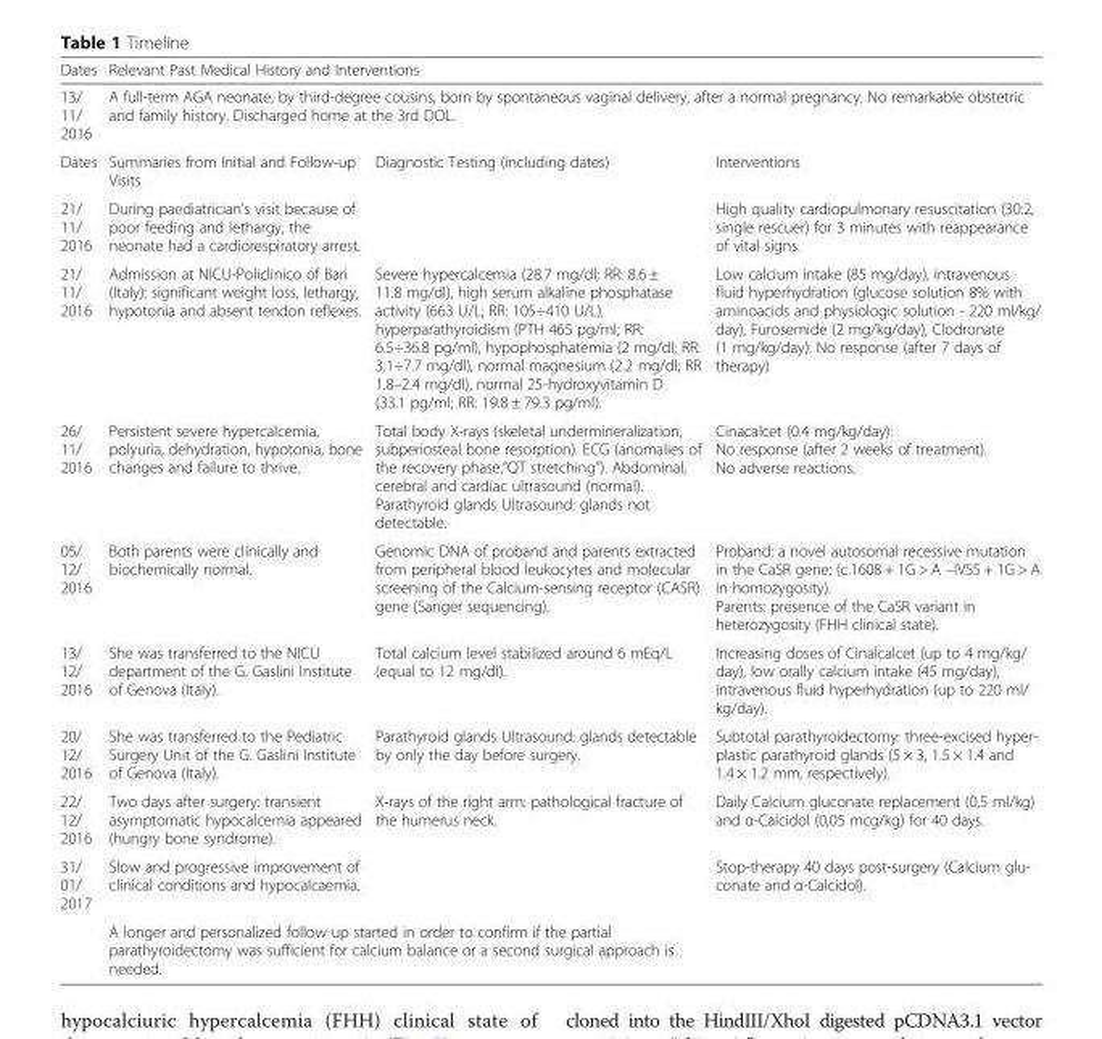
<table><thead><tr><td rowspan="3">Dates 13/ 11/ 2016 Dates</td><td rowspan="2" colspan="3">Relevant Past Medical History and Interventions A full-term AGA neonate, by third-degree cousins, born by spontaneous vaginal delivery, after a normal pregnancy. No remarkable obstetric and family history. Discharged home at the 3rd DOL.</td></tr><tr></tr><tr><td>Summaries from Initial and Follow-up Visits</td><td>Diagnostic Testing (including dates)</td><td>Interventions</td></tr></thead><tbody><tr><td>21/ 11/ 2016</td><td>During paediatrician’s visit because of poor feeding and lethargy, the neonate had a cardiorespiratory arrest.</td><td></td><td>High quality cardiopulmonary resuscitation (30:2, single rescuer) for 3 minutes with reappearance of vital signs.</td></tr><tr><td>21/ 11/ 2016</td><td>Admission at NICU-Policlinico of Bari (Italy): significant weight loss, lethargy, hypotonia and absent tendon reflexes.</td><td>Severe hypercalcemia (28.7 mg/dl; RR: 8.6 ± 11.8 mg/dl), high serum alkaline phosphatase activity (663 U/L; RR: 105÷410 U/L), hyperparathyroidism (PTH 465 pg/ml; RR: 6.5÷36.8 pg/ml), hypophosphatemia (2 mg/dl; RR: 3.1÷7.7 mg/dl), normal magnesium (2.2 mg/dl; RR 1.8–2.4 mg/dl), normal 25-hydroxyvitamin D (33.1 pg/ml; RR: 19.8 ± 79.3 pg/ml).</td><td>Low calcium intake (85 mg/day), intravenous fluid hyperhydration (glucose solution 8% with aminoacids and physiologic solution - 220 ml/kg/ day), Furosemide (2 mg/kg/day), Clodronate (1 mg/kg/day): No response (after 7 days of therapy)</td></tr><tr><td>26/ 11/ 2016</td><td>Persistent severe hypercalcemia, polyuria, dehydration, hypotonia, bone changes and failure to thrive.</td><td>Total body X-rays (skeletal undermineralization, subperiosteal bone resorption). ECG (anomalies of the recovery phase,“QT stretching”). Abdominal, cerebral and cardiac ultrasound (normal). Parathyroid glands Ultrasound: glands not detectable.</td><td>Cinacalcet (0.4 mg/kg/day): No response (after 2 weeks of treatment). No adverse reactions.</td></tr><tr><td>05/ 12/ 2016</td><td>Both parents were clinically and biochemically normal.</td><td>Genomic DNA of proband and parents extracted from peripheral blood leukocytes and molecular screening of the Calcium-sensing receptor (CASR) gene (Sanger sequencing).</td><td>Proband: a novel autosomal recessive mutation in the CaSR gene: (c.1608 + 1G &gt; A –IVS5 + 1G &gt; A in homozygosity). Parents: presence of the CaSR variant in heterozygosity (FHH clinical state).</td></tr><tr><td>13/ 12/ 2016</td><td>She was transferred to the NICU department of the G. Gaslini Institute of Genova (Italy).</td><td>Total calcium level stabilized around 6 mEq/L (equal to 12 mg/dl).</td><td>Increasing doses of Cinalcalcet (up to 4 mg/kg/ day), low orally calcium intake (45 mg/day), intravenous fluid hyperhydration (up to 220 ml/ kg/day).</td></tr><tr><td>20/ 12/ 2016</td><td>She was transferred to the Pediatric Surgery Unit of the G. Gaslini Institute of Genova (Italy).</td><td>Parathyroid glands Ultrasound: glands detectable by only the day before surgery.</td><td>Subtotal parathyroidectomy: three-excised hyper- plastic parathyroid glands (5 × 3, 1.5 × 1.4 and 1.4 × 1.2 mm, respectively).</td></tr><tr><td>22/ 12/ 2016</td><td>Two days after surgery: transient asymptomatic hypocalcemia appeared (hungry bone syndrome).</td><td>X-rays of the right arm: pathological fracture of the humerus neck.</td><td>Daily Calcium gluconate replacement (0,5 ml/kg) and α-Calcidol (0,05 mcg/kg) for 40 days.</td></tr><tr><td rowspan="2">31/ 01/ 2017</td><td>Slow and progressive improvement of clinical conditions and hypocalcaemia.</td><td></td><td>Stop-therapy 40 days post-surgery (Calcium glu- conate and α-Calcidol).</td></tr><tr><td colspan="2">A longer and personalized follow up started in order to confirm if the partial parathyroidectomy was sufficient for calcium balance or a second surgical approach is needed.</td><td></td></tr></tbody></table>